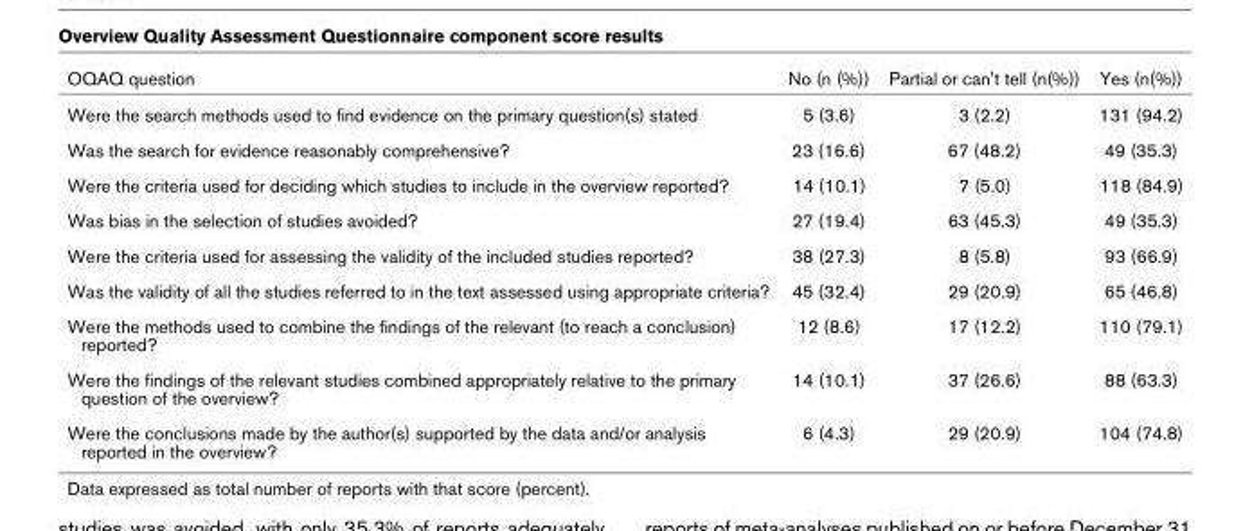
<table><thead><tr><td>OQAQ question</td><td>No (n (%))</td><td>Partial or can&#x27;t tell (n(%))</td><td>Yes (n(%))</td></tr></thead><tbody><tr><td>Were the search methods used to find evidence on the primary question(s) stated</td><td>5 (3.6)</td><td>3 (2.2)</td><td>131 (94.2)</td></tr><tr><td>Was the search for evidence reasonably comprehensive?</td><td>23 (16.6)</td><td>67 (48.2)</td><td>49 (35.3)</td></tr><tr><td>Were the criteria used for deciding which studies to include in the overview reported?</td><td>14 (10.1)</td><td>7 (5.0)</td><td>118 (84.9)</td></tr><tr><td>Was bias in the selection of studies avoided?</td><td>27 (19.4)</td><td>63 (45.3)</td><td>49 (35.3)</td></tr><tr><td>Were the criteria used for assessing the validity of the included studies reported?</td><td>38 (27.3)</td><td>8 (5.8)</td><td>93 (66.9)</td></tr><tr><td>Was the validity of all the studies referred to in the text assessed using appropriate criteria?</td><td>45 (32.4)</td><td>29 (20.9)</td><td>65 (46.8)</td></tr><tr><td>Were the methods used to combine the findings of the relevant (to reach a conclusion) reported?</td><td>12 (8.6)</td><td>17 (12.2)</td><td>110 (79.1)</td></tr><tr><td>Were the findings of the relevant studies combined appropriately relative to the primary question of the overview?</td><td>14 (10.1)</td><td>37 (26.6)</td><td>88 (63.3)</td></tr><tr><td>Were the conclusions made by the author(s) supported by the data and/or analysis reported in the overview?</td><td>6 (4.3)</td><td>29 (20.9)</td><td>104 (74.8)</td></tr></tbody></table>